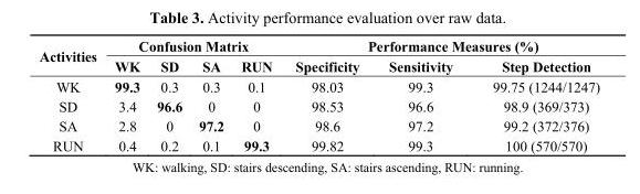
<table><thead><tr><td rowspan="2">Activities</td><td colspan="4">Confusion Matrix</td><td colspan="3">Performance Measures (%)</td></tr><tr><td>WK</td><td>SD</td><td>SA</td><td>RUN</td><td>Specificity</td><td>Sensitivity</td><td>Step Detection</td></tr></thead><tbody><tr><td>WK</td><td>99.3</td><td>0.3</td><td>0.3</td><td>0.1</td><td>98.03</td><td>99.3</td><td>99.75 (1244/1247)</td></tr><tr><td>SD</td><td>3.4</td><td>96.6</td><td>0</td><td>0</td><td>98.53</td><td>96.6</td><td>98.9 (369/373)</td></tr><tr><td>SA</td><td>2.8</td><td>0</td><td>97.2</td><td>0</td><td>98.6</td><td>97.2</td><td>99.2 (372/376)</td></tr><tr><td>RUN</td><td>0.4</td><td>0.2</td><td>0.1</td><td>99.3</td><td>99.82</td><td>99.3</td><td>100 (570/570)</td></tr></tbody></table>